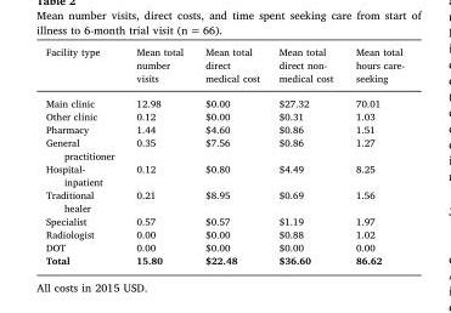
<table><thead><tr><td>Facility type</td><td>Mean total number visits</td><td>Mean total direct medical cost</td><td>Mean total direct non- medical cost</td><td>Mean total hours care- seeking</td></tr></thead><tbody><tr><td>Main clinic</td><td>12.98</td><td>$0.00</td><td>$27.32</td><td>70.01</td></tr><tr><td>Other clinic</td><td>0.12</td><td>$0.00</td><td>$0.31</td><td>1.03</td></tr><tr><td>Pharmacy</td><td>1.44</td><td>$4.60</td><td>$0.86</td><td>1.51</td></tr><tr><td>General practitioner</td><td>0.35</td><td>$7.56</td><td>$0.86</td><td>1.27</td></tr><tr><td>Hospital- inpatient</td><td>0.12</td><td>$0.80</td><td>$4.49</td><td>8.25</td></tr><tr><td>Traditional healer</td><td>0.21</td><td>$8.95</td><td>$0.69</td><td>1.56</td></tr><tr><td>Specialist</td><td>0.57</td><td>$0.57</td><td>$1.19</td><td>1.97</td></tr><tr><td>Radiologist</td><td>0.00</td><td>$0.00</td><td>$0.88</td><td>1.02</td></tr><tr><td>DOT</td><td>0.00</td><td>$0.00</td><td>$0.00</td><td>0.00</td></tr><tr><td>Total</td><td>15.80</td><td>$22.48</td><td>$36.60</td><td>86.62</td></tr></tbody></table>